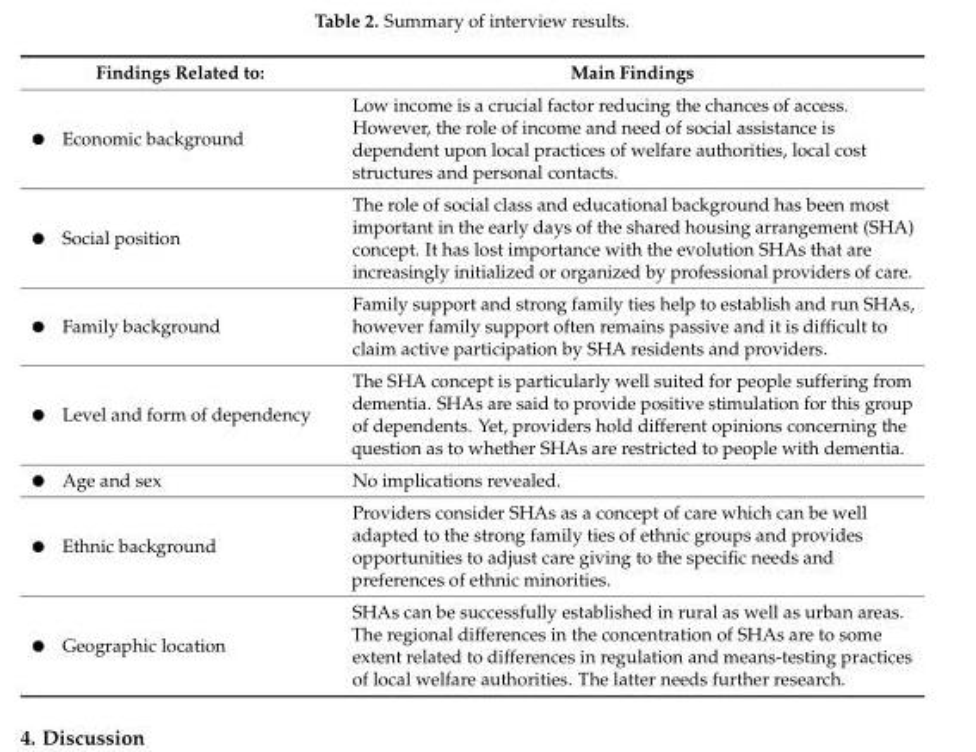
<table><thead><tr><td>Findings Related to:</td><td>Main Findings</td></tr></thead><tbody><tr><td>Economic background</td><td>Low income is a crucial factor reducing the chances of access. However, the role of income and need of social assistance is dependent upon local practices of welfare authorities, local cost structures and personal contacts.</td></tr><tr><td>Social position</td><td>The role of social class and educational background has been most important in the early days of the shared housing arrangement (SHA) concept. It has lost importance with the evolution SHAs that are increasingly initialized or organized by professional providers of care.</td></tr><tr><td>Family background</td><td>Family support and strong family ties help to establish and run SHAs, however family support often remains passive and it is difficult to claim active participation by SHA residents and providers.</td></tr><tr><td>Level and form of dependency</td><td>The SHA concept is particularly well suited for people suffering from dementia. SHAs are said to provide positive stimulation for this group of dependents. Yet, providers hold different opinions concerning the question as to whether SHAs are restricted to people with dementia.</td></tr><tr><td>Age and sex</td><td>No implications revealed.</td></tr><tr><td>Ethnic background</td><td>Providers consider SHAs as a concept of care which can be well adapted to the strong family ties of ethnic groups and provides opportunities to adjust care giving to the specific needs and preferences of ethnic minorities.</td></tr><tr><td>Geographic location</td><td>SHAs can be successfully established in rural as well as urban areas. The regional differences in the concentration of SHAs are to some extent related to differences in regulation and means-testing practices of local welfare authorities. The latter needs further research.</td></tr></tbody></table>